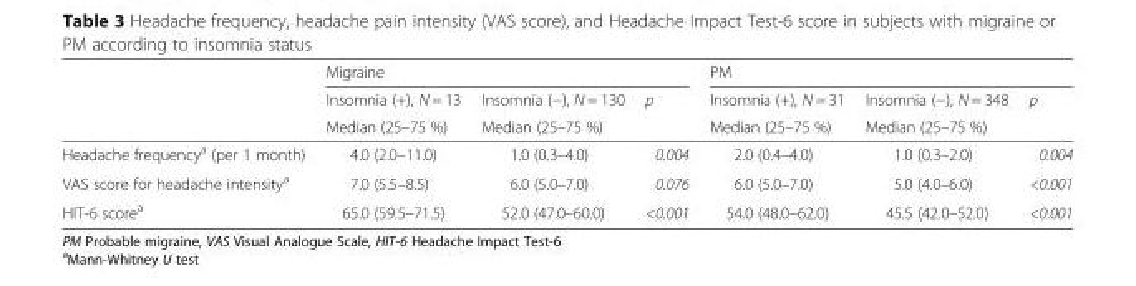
<table><thead><tr><td rowspan="3"></td><td colspan="3">Migraine</td><td colspan="3">PM</td></tr><tr><td rowspan="2">Insomnia (+), N = 13 Median (25–75 %)</td><td rowspan="2">Insomnia (−), N = 130 Median (25–75 %)</td><td rowspan="2">p</td><td rowspan="2">Insomnia (+), N = 31 Median (25–75 %)</td><td rowspan="2">Insomnia (−), N = 348 Median (25–75 %)</td><td rowspan="2">p</td></tr><tr></tr></thead><tbody><tr><td>Headache frequency<sup>a</sup> (per 1 month)</td><td>4.0 (2.0–11.0)</td><td>1.0 (0.3–4.0)</td><td>0.004</td><td>2.0 (0.4–4.0)</td><td>1.0 (0.3–2.0)</td><td>0.004</td></tr><tr><td>VAS score for headache intensity<sup>a</sup></td><td>7.0 (5.5–8.5)</td><td>6.0 (5.0–7.0)</td><td>0.076</td><td>6.0 (5.0–7.0)</td><td>5.0 (4.0–6.0)</td><td>&lt;0.001</td></tr><tr><td>HIT-6 score<sup>a</sup></td><td>65.0 (59.5–71.5)</td><td>52.0 (47.0–60.0)</td><td>&lt;0.001</td><td>54.0 (48.0–62.0)</td><td>45.5 (42.0–52.0)</td><td>&lt;0.001</td></tr></tbody></table>